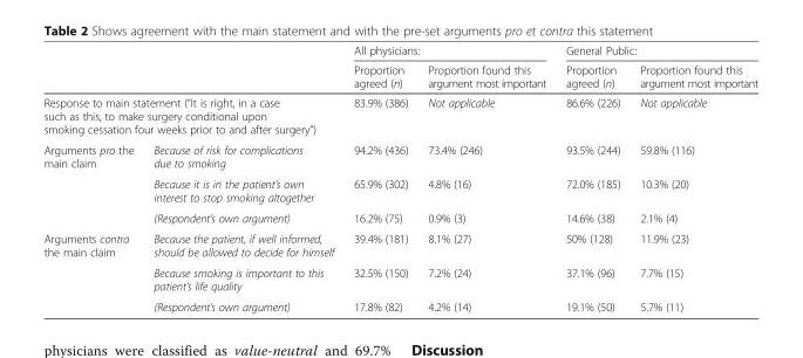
<table><thead><tr><td rowspan="2"></td><td rowspan="2"></td><td colspan="2">All physicians:</td><td colspan="2">General Public:</td></tr><tr><td>Proportion agreed (n)</td><td>Proportion found this argument most important</td><td>Proportion agreed (n)</td><td>Proportion found this argument most important</td></tr></thead><tbody><tr><td colspan="2">Response to main statement (“It is right, in a case such as this, to make surgery conditional upon smoking cessation four weeks prior to and after surgery”)</td><td>83.9% (386)</td><td>Not applicable</td><td>86.6% (226)</td><td>Not applicable</td></tr><tr><td rowspan="3">Arguments pro the main claim</td><td>Because of risk for complications due to smoking</td><td>94.2% (436)</td><td>73.4% (246)</td><td>93.5% (244)</td><td>59.8% (116)</td></tr><tr><td>Because it is in the patient’s own interest to stop smoking altogether</td><td>65.9% (302)</td><td>4.8% (16)</td><td>72.0% (185)</td><td>10.3% (20)</td></tr><tr><td>(Respondent’s own argument)</td><td>16.2% (75)</td><td>0.9% (3)</td><td>14.6% (38)</td><td>2.1% (4)</td></tr><tr><td rowspan="3">Arguments contra the main claim</td><td>Because the patient, if well informed, should be allowed to decide for himself</td><td>39.4% (181)</td><td>8.1% (27)</td><td>50% (128)</td><td>11.9% (23)</td></tr><tr><td>Because smoking is important to this patient’s life quality</td><td>32.5% (150)</td><td>7.2% (24)</td><td>37.1% (96)</td><td>7.7% (15)</td></tr><tr><td>(Respondent’s own argument)</td><td>17.8% (82)</td><td>4.2% (14)</td><td>19.1% (50)</td><td>5.7% (11)</td></tr></tbody></table>